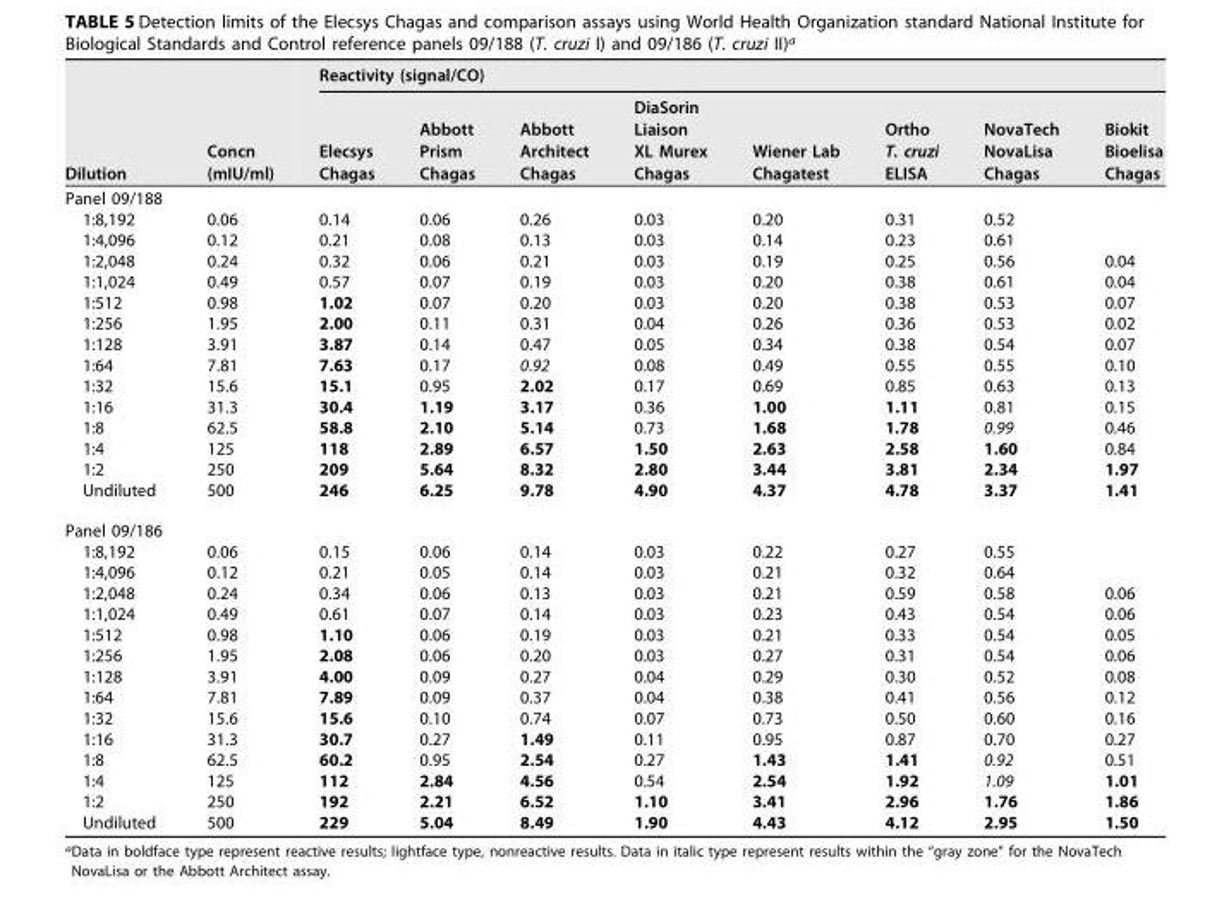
<table><thead><tr><td rowspan="2">Dilution</td><td rowspan="2">Concn (mIU/ml)</td><td colspan="8">Reactivity (signal/CO)</td></tr><tr><td>Elecsys Chagas</td><td>Abbott Prism Chagas</td><td>Abbott Architect Chagas</td><td>DiaSorin Liaison XL Murex Chagas</td><td>Wiener Lab Chagatest</td><td>Ortho T. cruzi ELISA</td><td>NovaTech NovaLisa Chagas</td><td>Biokit Bioelisa Chagas</td></tr></thead><tbody><tr><td colspan="10">Panel 09/188</td></tr><tr><td>1:8,192</td><td>0.06</td><td>0.14</td><td>0.06</td><td>0.26</td><td>0.03</td><td>0.20</td><td>0.31</td><td>0.52</td><td></td></tr><tr><td>1:4,096</td><td>0.12</td><td>0.21</td><td>0.08</td><td>0.13</td><td>0.03</td><td>0.14</td><td>0.23</td><td>0.61</td><td></td></tr><tr><td>1:2,048</td><td>0.24</td><td>0.32</td><td>0.06</td><td>0.21</td><td>0.03</td><td>0.19</td><td>0.25</td><td>0.56</td><td>0.04</td></tr><tr><td>1:1,024</td><td>0.49</td><td>0.57</td><td>0.07</td><td>0.19</td><td>0.03</td><td>0.20</td><td>0.38</td><td>0.61</td><td>0.04</td></tr><tr><td>1:512</td><td>0.98</td><td>1.02</td><td>0.07</td><td>0.20</td><td>0.03</td><td>0.20</td><td>0.38</td><td>0.53</td><td>0.07</td></tr><tr><td>1:256</td><td>1.95</td><td>2.00</td><td>0.11</td><td>0.31</td><td>0.04</td><td>0.26</td><td>0.36</td><td>0.53</td><td>0.02</td></tr><tr><td>1:128</td><td>3.91</td><td>3.87</td><td>0.14</td><td>0.47</td><td>0.05</td><td>0.34</td><td>0.38</td><td>0.54</td><td>0.07</td></tr><tr><td>1:64</td><td>7.81</td><td>7.63</td><td>0.17</td><td>0.92</td><td>0.08</td><td>0.49</td><td>0.55</td><td>0.55</td><td>0.10</td></tr><tr><td>1:32</td><td>15.6</td><td>15.1</td><td>0.95</td><td>2.02</td><td>0.17</td><td>0.69</td><td>0.85</td><td>0.63</td><td>0.13</td></tr><tr><td>1:16</td><td>31.3</td><td>30.4</td><td>1.19</td><td>3.17</td><td>0.36</td><td>1.00</td><td>1.11</td><td>0.81</td><td>0.15</td></tr><tr><td>1:8</td><td>62.5</td><td>58.8</td><td>2.10</td><td>5.14</td><td>0.73</td><td>1.68</td><td>1.78</td><td>0.99</td><td>0.46</td></tr><tr><td>1:4</td><td>125</td><td>118</td><td>2.89</td><td>6.57</td><td>1.50</td><td>2.63</td><td>2.58</td><td>1.60</td><td>0.84</td></tr><tr><td>1:2</td><td>250</td><td>209</td><td>5.64</td><td>8.32</td><td>2.80</td><td>3.44</td><td>3.81</td><td>2.34</td><td>1.97</td></tr><tr><td>Undiluted</td><td>500</td><td>246</td><td>6.25</td><td>9.78</td><td>4.90</td><td>4.37</td><td>4.78</td><td>3.37</td><td>1.41</td></tr><tr><td colspan="10">Panel 09/186</td></tr><tr><td>1:8,192</td><td>0.06</td><td>0.15</td><td>0.06</td><td>0.14</td><td>0.03</td><td>0.22</td><td>0.27</td><td>0.55</td><td></td></tr><tr><td>1:4,096</td><td>0.12</td><td>0.21</td><td>0.05</td><td>0.14</td><td>0.03</td><td>0.21</td><td>0.32</td><td>0.64</td><td></td></tr><tr><td>1:2,048</td><td>0.24</td><td>0.34</td><td>0.06</td><td>0.13</td><td>0.03</td><td>0.21</td><td>0.59</td><td>0.58</td><td>0.06</td></tr><tr><td>1:1,024</td><td>0.49</td><td>0.61</td><td>0.07</td><td>0.14</td><td>0.03</td><td>0.23</td><td>0.43</td><td>0.54</td><td>0.06</td></tr><tr><td>1:512</td><td>0.98</td><td>1.10</td><td>0.06</td><td>0.19</td><td>0.03</td><td>0.21</td><td>0.33</td><td>0.54</td><td>0.05</td></tr><tr><td>1:256</td><td>1.95</td><td>2.08</td><td>0.06</td><td>0.20</td><td>0.03</td><td>0.27</td><td>0.31</td><td>0.54</td><td>0.06</td></tr><tr><td>1:128</td><td>3.91</td><td>4.00</td><td>0.09</td><td>0.27</td><td>0.04</td><td>0.29</td><td>0.30</td><td>0.52</td><td>0.08</td></tr><tr><td>1:64</td><td>7.81</td><td>7.89</td><td>0.09</td><td>0.37</td><td>0.04</td><td>0.38</td><td>0.41</td><td>0.56</td><td>0.12</td></tr><tr><td>1:32</td><td>15.6</td><td>15.6</td><td>0.10</td><td>0.74</td><td>0.07</td><td>0.73</td><td>0.50</td><td>0.60</td><td>0.16</td></tr><tr><td>1:16</td><td>31.3</td><td>30.7</td><td>0.27</td><td>1.49</td><td>0.11</td><td>0.95</td><td>0.87</td><td>0.70</td><td>0.27</td></tr><tr><td>1:8</td><td>62.5</td><td>60.2</td><td>0.95</td><td>2.54</td><td>0.27</td><td>1.43</td><td>1.41</td><td>0.92</td><td>0.51</td></tr><tr><td>1:4</td><td>125</td><td>112</td><td>2.84</td><td>4.56</td><td>0.54</td><td>2.54</td><td>1.92</td><td>1.09</td><td>1.01</td></tr><tr><td>1:2</td><td>250</td><td>192</td><td>2.21</td><td>6.52</td><td>1.10</td><td>3.41</td><td>2.96</td><td>1.76</td><td>1.86</td></tr><tr><td>Undiluted</td><td>500</td><td>229</td><td>5.04</td><td>8.49</td><td>1.90</td><td>4.43</td><td>4.12</td><td>2.95</td><td>1.50</td></tr></tbody></table>